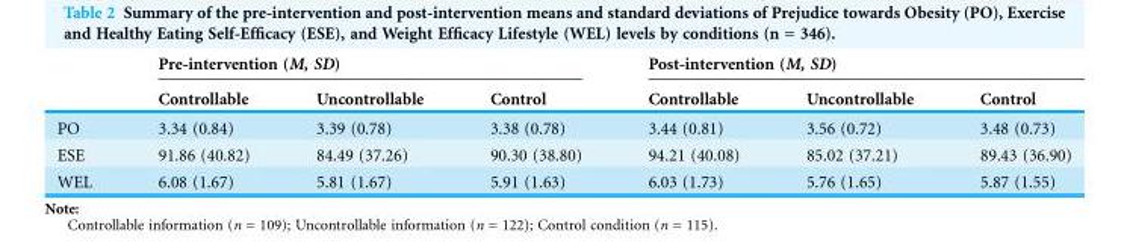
<table><thead><tr><td rowspan="2"></td><td colspan="3">Pre-intervention (M, SD)</td><td colspan="3">Post-intervention (M, SD)</td></tr><tr><td>Controllable</td><td>Uncontrollable</td><td>Control</td><td>Controllable</td><td>Uncontrollable</td><td>Control</td></tr></thead><tbody><tr><td>PO</td><td>3.34 (0.84)</td><td>3.39 (0.78)</td><td>3.38 (0.78)</td><td>3.44 (0.81)</td><td>3.56 (0.72)</td><td>3.48 (0.73)</td></tr><tr><td>ESE</td><td>91.86 (40.82)</td><td>84.49 (37.26)</td><td>90.30 (38.80)</td><td>94.21 (40.08)</td><td>85.02 (37.21)</td><td>89.43 (36.90)</td></tr><tr><td>WEL</td><td>6.08 (1.67)</td><td>5.81 (1.67)</td><td>5.91 (1.63)</td><td>6.03 (1.73)</td><td>5.76 (1.65)</td><td>5.87 (1.55)</td></tr></tbody></table>